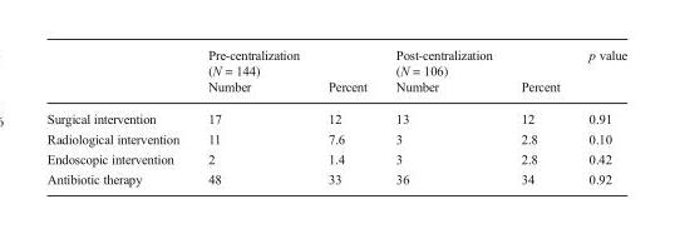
<table><thead><tr><td rowspan="2"></td><td rowspan="2">Pre-centralization (N = 144) Number</td><td rowspan="2">Percent</td><td rowspan="2">Post-centralization (N = 106) Number</td><td rowspan="2">Percent</td><td rowspan="2">p value</td></tr><tr></tr></thead><tbody><tr><td>Surgical intervention</td><td>17</td><td>12</td><td>13</td><td>12</td><td>0.91</td></tr><tr><td>Radiological intervention</td><td>11</td><td>7.6</td><td>3</td><td>2.8</td><td>0.10</td></tr><tr><td>Endoscopic intervention</td><td>2</td><td>1.4</td><td>3</td><td>2.8</td><td>0.42</td></tr><tr><td>Antibiotic therapy</td><td>48</td><td>33</td><td>36</td><td>34</td><td>0.92</td></tr></tbody></table>